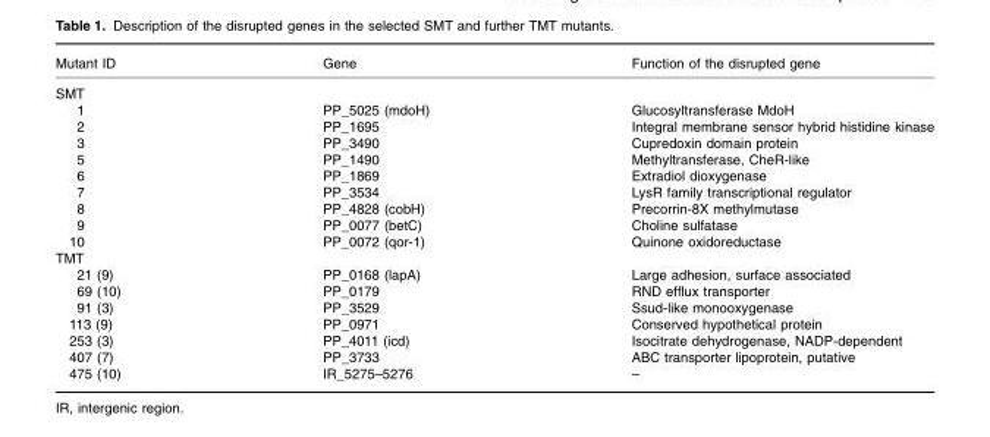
<table><thead><tr><td>Mutant ID</td><td>Gene</td><td>Function of the disrupted gene</td></tr></thead><tbody><tr><td colspan="3">SMT</td></tr><tr><td>1</td><td>PP_5025 (mdoH)</td><td>Glucosyltransferase MdoH</td></tr><tr><td>2</td><td>PP_1695</td><td>Integral membrane sensor hybrid histidine kinase</td></tr><tr><td>3</td><td>PP_3490</td><td>Cupredoxin domain protein</td></tr><tr><td>5</td><td>PP_1490</td><td>Methyltransferase, CheR-like</td></tr><tr><td>6</td><td>PP_1869</td><td>Extradiol dioxygenase</td></tr><tr><td>7</td><td>PP_3534</td><td>LysR family transcriptional regulator</td></tr><tr><td>8</td><td>PP_4828 (cobH)</td><td>Precorrin-8X methylmutase</td></tr><tr><td>9</td><td>PP_0077 (betC)</td><td>Choline sulfatase</td></tr><tr><td>10</td><td>PP_0072 (qor-1)</td><td>Quinone oxidoreductase</td></tr><tr><td colspan="3">TMT</td></tr><tr><td>21 (9)</td><td>PP_0168 (lapA)</td><td>Large adhesion, surface associated</td></tr><tr><td>69 (10)</td><td>PP_0179</td><td>RND efflux transporter</td></tr><tr><td>91 (3)</td><td>PP_3529</td><td>Ssud-like monooxygenase</td></tr><tr><td>113 (9)</td><td>PP_0971</td><td>Conserved hypothetical protein</td></tr><tr><td>253 (3)</td><td>PP_4011 (icd)</td><td>Isocitrate dehydrogenase, NADP-dependent</td></tr><tr><td>407 (7)</td><td>PP_3733</td><td>ABC transporter lipoprotein, putative</td></tr><tr><td>475 (10)</td><td>IR_5275–5276</td><td>–</td></tr></tbody></table>